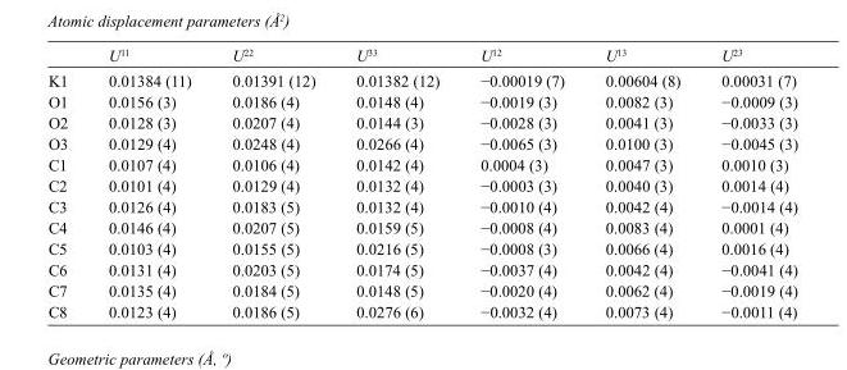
<table><thead><tr><td></td><td>U<sup>11</sup></td><td>U<sup>22</sup></td><td>U<sup>33</sup></td><td>U<sup>12</sup></td><td>U<sup>13</sup></td><td>U<sup>23</sup></td></tr></thead><tbody><tr><td>K1</td><td>0.01384 (11)</td><td>0.01391 (12)</td><td>0.01382 (12)</td><td>−0.00019 (7)</td><td>0.00604 (8)</td><td>0.00031 (7)</td></tr><tr><td>O1</td><td>0.0156 (3)</td><td>0.0186 (4)</td><td>0.0148 (4)</td><td>−0.0019 (3)</td><td>0.0082 (3)</td><td>−0.0009 (3)</td></tr><tr><td>O2</td><td>0.0128 (3)</td><td>0.0207 (4)</td><td>0.0144 (3)</td><td>−0.0028 (3)</td><td>0.0041 (3)</td><td>−0.0033 (3)</td></tr><tr><td>O3</td><td>0.0129 (4)</td><td>0.0248 (4)</td><td>0.0266 (4)</td><td>−0.0065 (3)</td><td>0.0100 (3)</td><td>−0.0045 (3)</td></tr><tr><td>C1</td><td>0.0107 (4)</td><td>0.0106 (4)</td><td>0.0142 (4)</td><td>0.0004 (3)</td><td>0.0047 (3)</td><td>0.0010 (3)</td></tr><tr><td>C2</td><td>0.0101 (4)</td><td>0.0129 (4)</td><td>0.0132 (4)</td><td>−0.0003 (3)</td><td>0.0040 (3)</td><td>0.0014 (4)</td></tr><tr><td>C3</td><td>0.0126 (4)</td><td>0.0183 (5)</td><td>0.0132 (4)</td><td>−0.0010 (4)</td><td>0.0042 (4)</td><td>−0.0014 (4)</td></tr><tr><td>C4</td><td>0.0146 (4)</td><td>0.0207 (5)</td><td>0.0159 (5)</td><td>−0.0008 (4)</td><td>0.0083 (4)</td><td>0.0001 (4)</td></tr><tr><td>C5</td><td>0.0103 (4)</td><td>0.0155 (5)</td><td>0.0216 (5)</td><td>−0.0008 (3)</td><td>0.0066 (4)</td><td>0.0016 (4)</td></tr><tr><td>C6</td><td>0.0131 (4)</td><td>0.0203 (5)</td><td>0.0174 (5)</td><td>−0.0037 (4)</td><td>0.0042 (4)</td><td>−0.0041 (4)</td></tr><tr><td>C7</td><td>0.0135 (4)</td><td>0.0184 (5)</td><td>0.0148 (5)</td><td>−0.0020 (4)</td><td>0.0062 (4)</td><td>−0.0019 (4)</td></tr><tr><td>C8</td><td>0.0123 (4)</td><td>0.0186 (5)</td><td>0.0276 (6)</td><td>−0.0032 (4)</td><td>0.0073 (4)</td><td>−0.0011 (4)</td></tr></tbody></table>